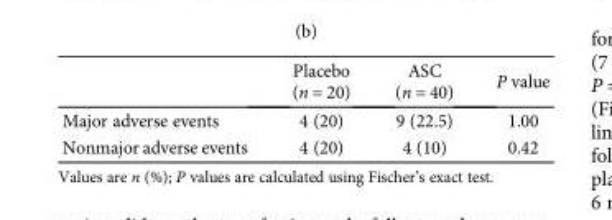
<table><thead><tr><td></td><td>Placebo (n = 20)</td><td>ASC (n = 40)</td><td>P value</td></tr></thead><tbody><tr><td>Major adverse events</td><td>4 (20)</td><td>9 (22.5)</td><td>1.00</td></tr><tr><td>Nonmajor adverse events</td><td>4 (20)</td><td>4 (10)</td><td>0.42</td></tr></tbody></table>